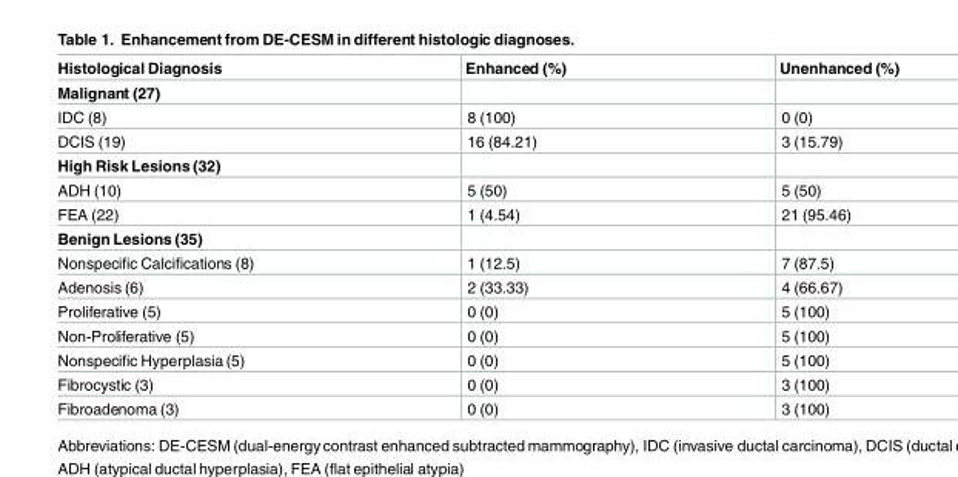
<table><thead><tr><td>Histological Diagnosis</td><td>Enhanced (%)</td><td>Unenhanced (%)</td></tr></thead><tbody><tr><td colspan="3">Malignant (27)</td></tr><tr><td>IDC (8)</td><td>8 (100)</td><td>0 (0)</td></tr><tr><td>DCIS (19)</td><td>16 (84.21)</td><td>3 (15.79)</td></tr><tr><td colspan="3">High Risk Lesions (32)</td></tr><tr><td>ADH (10)</td><td>5 (50)</td><td>5 (50)</td></tr><tr><td>FEA (22)</td><td>1 (4.54)</td><td>21 (95.46)</td></tr><tr><td colspan="3">Benign Lesions (35)</td></tr><tr><td>Nonspecific Calcifications (8)</td><td>1 (12.5)</td><td>7 (87.5)</td></tr><tr><td>Adenosis (6)</td><td>2 (33.33)</td><td>4 (66.67)</td></tr><tr><td>Proliferative (5)</td><td>0 (0)</td><td>5 (100)</td></tr><tr><td>Non-Proliferative (5)</td><td>0 (0)</td><td>5 (100)</td></tr><tr><td>Nonspecific Hyperplasia(5)</td><td>0 (0)</td><td>5 (100)</td></tr><tr><td>Fibrocystic (3)</td><td>0 (0)</td><td>3 (100)</td></tr><tr><td>Fibroadenoma (3)</td><td>0 (0)</td><td>3 (100)</td></tr></tbody></table>